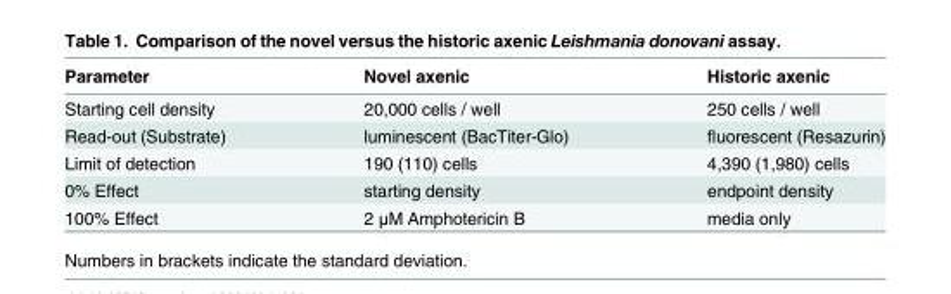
<table><thead><tr><td>Parameter</td><td>Novel axenic</td><td>Historic axenic</td></tr></thead><tbody><tr><td>Starting cell density</td><td>20,000 cells / well</td><td>250 cells / well</td></tr><tr><td>Read-out (Substrate)</td><td>luminescent (BacTiter-Glo)</td><td>fluorescent (Resazurin)</td></tr><tr><td>Limit of detection</td><td>190 (110) cells</td><td>4,390 (1,980) cells</td></tr><tr><td>0% Effect</td><td>starting density</td><td>endpoint density</td></tr><tr><td>100% Effect</td><td>2 μM Amphotericin B</td><td>media only</td></tr></tbody></table>